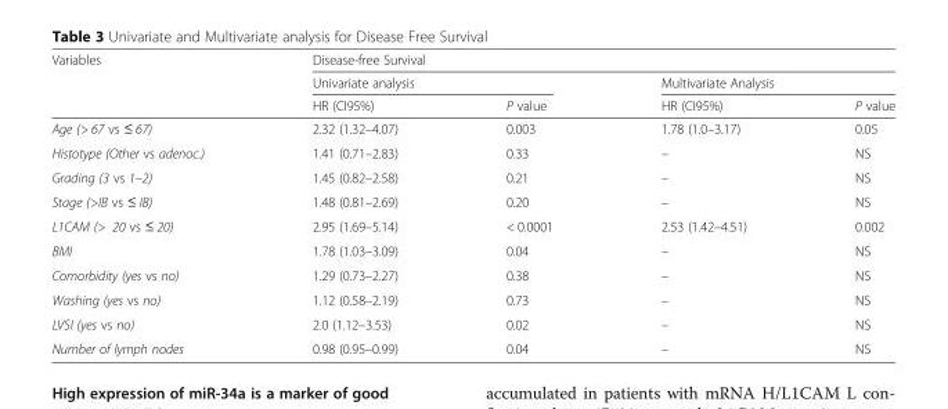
<table><thead><tr><td rowspan="3">Variables</td><td colspan="4">Disease-free Survival</td></tr><tr><td colspan="2">Univariate analysis</td><td colspan="2">Multivariate Analysis</td></tr><tr><td>HR (CI95%)</td><td>P value</td><td>HR (CI95%)</td><td>P value</td></tr></thead><tbody><tr><td>Age (&gt; 67 vs ≤ 67)</td><td>2.32 (1.32–4.07)</td><td>0.003</td><td>1.78 (1.0–3.17)</td><td>0.05</td></tr><tr><td>Histotype (Other vs adenoc.)</td><td>1.41 (0.71–2.83)</td><td>0.33</td><td>–</td><td>NS</td></tr><tr><td>Grading (3 vs 1–2)</td><td>1.45 (0.82–2.58)</td><td>0.21</td><td>–</td><td>NS</td></tr><tr><td>Stage (&gt;IB vs ≤ IB)</td><td>1.48 (0.81–2.69)</td><td>0.20</td><td>–</td><td>NS</td></tr><tr><td>L1CAM (&gt; 20 vs ≤ 20)</td><td>2.95 (1.69–5.14)</td><td>&lt; 0.0001</td><td>2.53 (1.42–4.51)</td><td>0.002</td></tr><tr><td>BMI</td><td>1.78 (1.03–3.09)</td><td>0.04</td><td>–</td><td>NS</td></tr><tr><td>Comorbidity (yes vs no)</td><td>1.29 (0.73–2.27)</td><td>0.38</td><td>–</td><td>NS</td></tr><tr><td>Washing (yes vs no)</td><td>1.12 (0.58–2.19)</td><td>0.73</td><td>–</td><td>NS</td></tr><tr><td>LVSI (yes vs no)</td><td>2.0 (1.12–3.53)</td><td>0.02</td><td>–</td><td>NS</td></tr><tr><td>Number of lymph nodes</td><td>0.98 (0.95–0.99)</td><td>0.04</td><td>–</td><td>NS</td></tr></tbody></table>